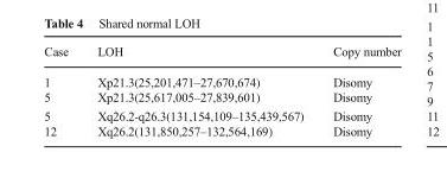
<table><thead><tr><td>Case</td><td>LOH</td><td>Copy number</td></tr></thead><tbody><tr><td>1 5</td><td>Xp21.3(25,201,471–27,670,674) Xp21.3(25,617,005–27,839,601)</td><td>Disomy Disomy</td></tr><tr><td>5 12</td><td>Xq26.2-q26.3(131,154,109–135,439,567) Xq26.2(131,850,257–132,564,169)</td><td>Disomy Disomy</td></tr></tbody></table>